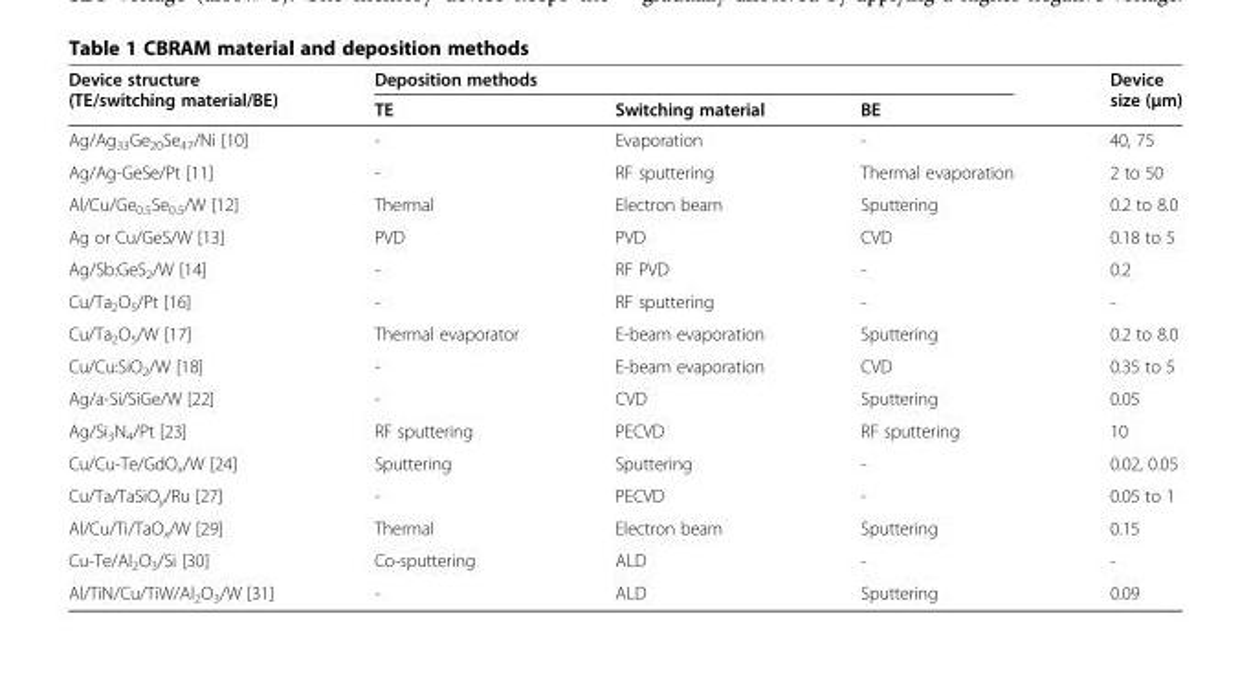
<table><thead><tr><td rowspan="2">Device structure (TE/switching material/BE)</td><td colspan="3">Deposition methods</td><td rowspan="2">Device size (μm)</td></tr><tr><td>TE</td><td>Switching material</td><td>BE</td></tr></thead><tbody><tr><td>Ag/Ag<sub>33</sub>Ge<sub>20</sub>Se<sub>47</sub>/Ni [10]</td><td>-</td><td>Evaporation</td><td>-</td><td>40, 75</td></tr><tr><td>Ag/Ag-GeSe/Pt [11]</td><td>-</td><td>RF sputtering</td><td>Thermal evaporation</td><td>2 to 50</td></tr><tr><td>Al/Cu/Ge<sub>0.5</sub>Se<sub>0.5</sub>/W [12]</td><td>Thermal</td><td>Electron beam</td><td>Sputtering</td><td>0.2 to 8.0</td></tr><tr><td>Ag or Cu/GeS/W [13]</td><td>PVD</td><td>PVD</td><td>CVD</td><td>0.18 to 5</td></tr><tr><td>Ag/Sb:GeS<sub>2</sub>/W [14]</td><td>-</td><td>RF PVD</td><td>-</td><td>0.2</td></tr><tr><td>Cu/Ta<sub>2</sub>O<sub>5</sub>/Pt [16]</td><td>-</td><td>RF sputtering</td><td>-</td><td>-</td></tr><tr><td>Cu/Ta<sub>2</sub>O<sub>5</sub>/W [17]</td><td>Thermal evaporator</td><td>E-beam evaporation</td><td>Sputtering</td><td>0.2 to 8.0</td></tr><tr><td>Cu/Cu:SiO<sub>2</sub>/W [18]</td><td>-</td><td>E-beam evaporation</td><td>CVD</td><td>0.35 to 5</td></tr><tr><td>Ag/a-Si/SiGe/W [22]</td><td>-</td><td>CVD</td><td>Sputtering</td><td>0.05</td></tr><tr><td>Ag/Si<sub>3</sub>N<sub>4</sub>/Pt [23]</td><td>RF sputtering</td><td>PECVD</td><td>RF sputtering</td><td>10</td></tr><tr><td>Cu/Cu-Te/GdO<sub>x</sub>/W [24]</td><td>Sputtering</td><td>Sputtering</td><td>-</td><td>0.02, 0.05</td></tr><tr><td>Cu/Ta/TaSiO<sub>y</sub>/Ru [27]</td><td>-</td><td>PECVD</td><td>-</td><td>0.05 to 1</td></tr><tr><td>Al/Cu/Ti/TaO<sub>x</sub>/W [29]</td><td>Thermal</td><td>Electron beam</td><td>Sputtering</td><td>0.15</td></tr><tr><td>Cu-Te/Al<sub>2</sub>O<sub>3</sub>/Si [30]</td><td>Co-sputtering</td><td>ALD</td><td>-</td><td>-</td></tr><tr><td>Al/TiN/Cu/TiW/Al<sub>2</sub>O<sub>3</sub>/W [31]</td><td>-</td><td>ALD</td><td>Sputtering</td><td>0.09</td></tr></tbody></table>